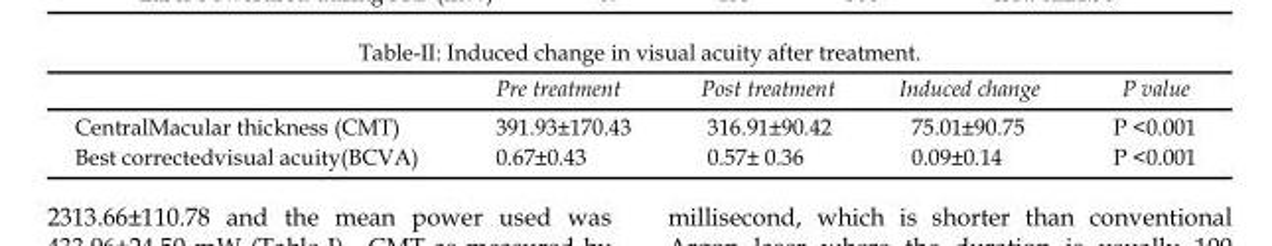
<table><thead><tr><td></td><td>Pre treatment</td><td>Post treatment</td><td>Induced change</td><td>P value</td></tr></thead><tbody><tr><td>CentralMacular thickness (CMT)</td><td>391.93±170.43</td><td>316.91±90.42</td><td>75.01±90.75</td><td>P &lt;0.001</td></tr><tr><td>Best correctedvisual acuity(BCVA)</td><td>0.67±0.43</td><td>0.57± 0.36</td><td>0.09±0.14</td><td>P &lt;0.001</td></tr></tbody></table>